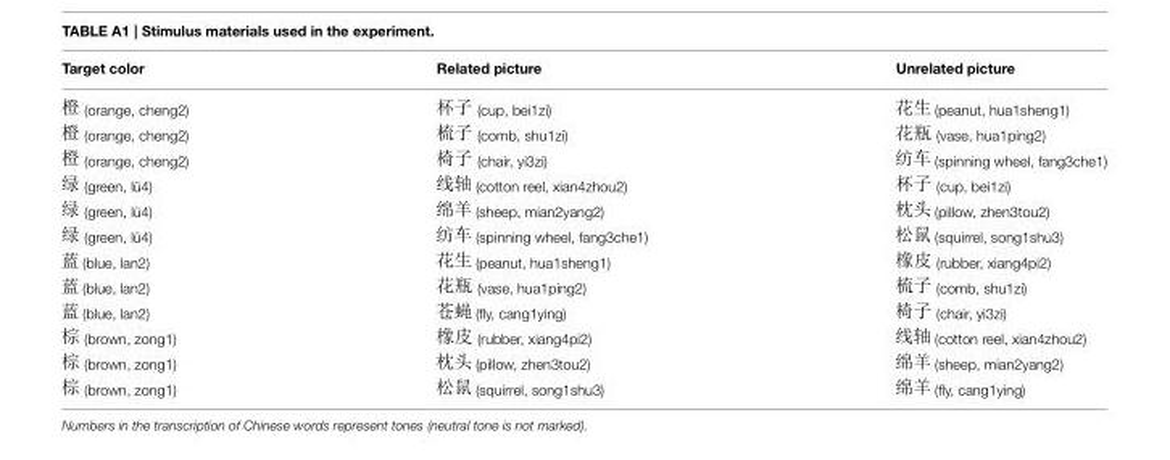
<table><thead><tr><td>Target color</td><td>Related picture</td><td>Unrelated picture</td></tr></thead><tbody><tr><td>(orange, cheng2)</td><td>(cup, bei1zi)</td><td>(peanut, hua1sheng1)</td></tr><tr><td>(orange, cheng2)</td><td>(comb, shu1zi)</td><td>(vase, hua1ping2)</td></tr><tr><td>(orange, cheng2)</td><td>(chair, yi3zi)</td><td>(spinning wheel, fang3che1)</td></tr><tr><td>(green, lü4)</td><td>(cotton reel, xian4zhou2)</td><td>(cup, bei1zi)</td></tr><tr><td>(green, lü4)</td><td>(sheep, mian2yang2)</td><td>(pillow, zhen3tou2)</td></tr><tr><td>(green, lü4)</td><td>(spinning wheel, fang3che1)</td><td>(squirrel, song1shu3)</td></tr><tr><td>(blue, lan2)</td><td>(peanut, hua1sheng1)</td><td>(rubber, xiang4pi2)</td></tr><tr><td>(blue, lan2)</td><td>(vase, hua1ping2)</td><td>(comb, shu1zi)</td></tr><tr><td>(blue, lan2)</td><td>(fly, cang1ying)</td><td>(chair, yi3zi)</td></tr><tr><td>(brown, zong1)</td><td>(rubber, xiang4pi2)</td><td>(cotton reel, xian4zhou2)</td></tr><tr><td>(brown, zong1)</td><td>(pillow, zhen3tou2)</td><td>(sheep, mian2yang2)</td></tr><tr><td>(brown, zong1)</td><td>(squirrel, song1shu3)</td><td>(fly, cang1ying)</td></tr></tbody></table>